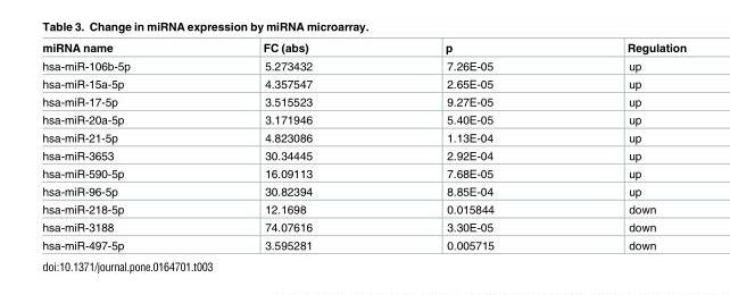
<table><thead><tr><td>miRNA name</td><td>FC (abs)</td><td>p</td><td>Regulation</td></tr></thead><tbody><tr><td>hsa-miR-106b-5p</td><td>5.273432</td><td>7.26E-05</td><td>up</td></tr><tr><td>hsa-miR-15a-5p</td><td>4.357547</td><td>2.65E-05</td><td>up</td></tr><tr><td>hsa-miR-17-5p</td><td>3.515523</td><td>9.27E-05</td><td>up</td></tr><tr><td>hsa-miR-20a-5p</td><td>3.171946</td><td>5.40E-05</td><td>up</td></tr><tr><td>hsa-miR-21-5p</td><td>4.823086</td><td>1.13E-04</td><td>up</td></tr><tr><td>hsa-miR-3653</td><td>30.34445</td><td>2.92E-04</td><td>up</td></tr><tr><td>hsa-miR-590-5p</td><td>16.09113</td><td>7.68E-05</td><td>up</td></tr><tr><td>hsa-miR-96-5p</td><td>30.82394</td><td>8.85E-04</td><td>up</td></tr><tr><td>hsa-miR-218-5p</td><td>12.1698</td><td>0.015844</td><td>down</td></tr><tr><td>hsa-miR-3188</td><td>74.07616</td><td>3.30E-05</td><td>down</td></tr><tr><td>hsa-miR-497-5p</td><td>3.595281</td><td>0.005715</td><td>down</td></tr></tbody></table>